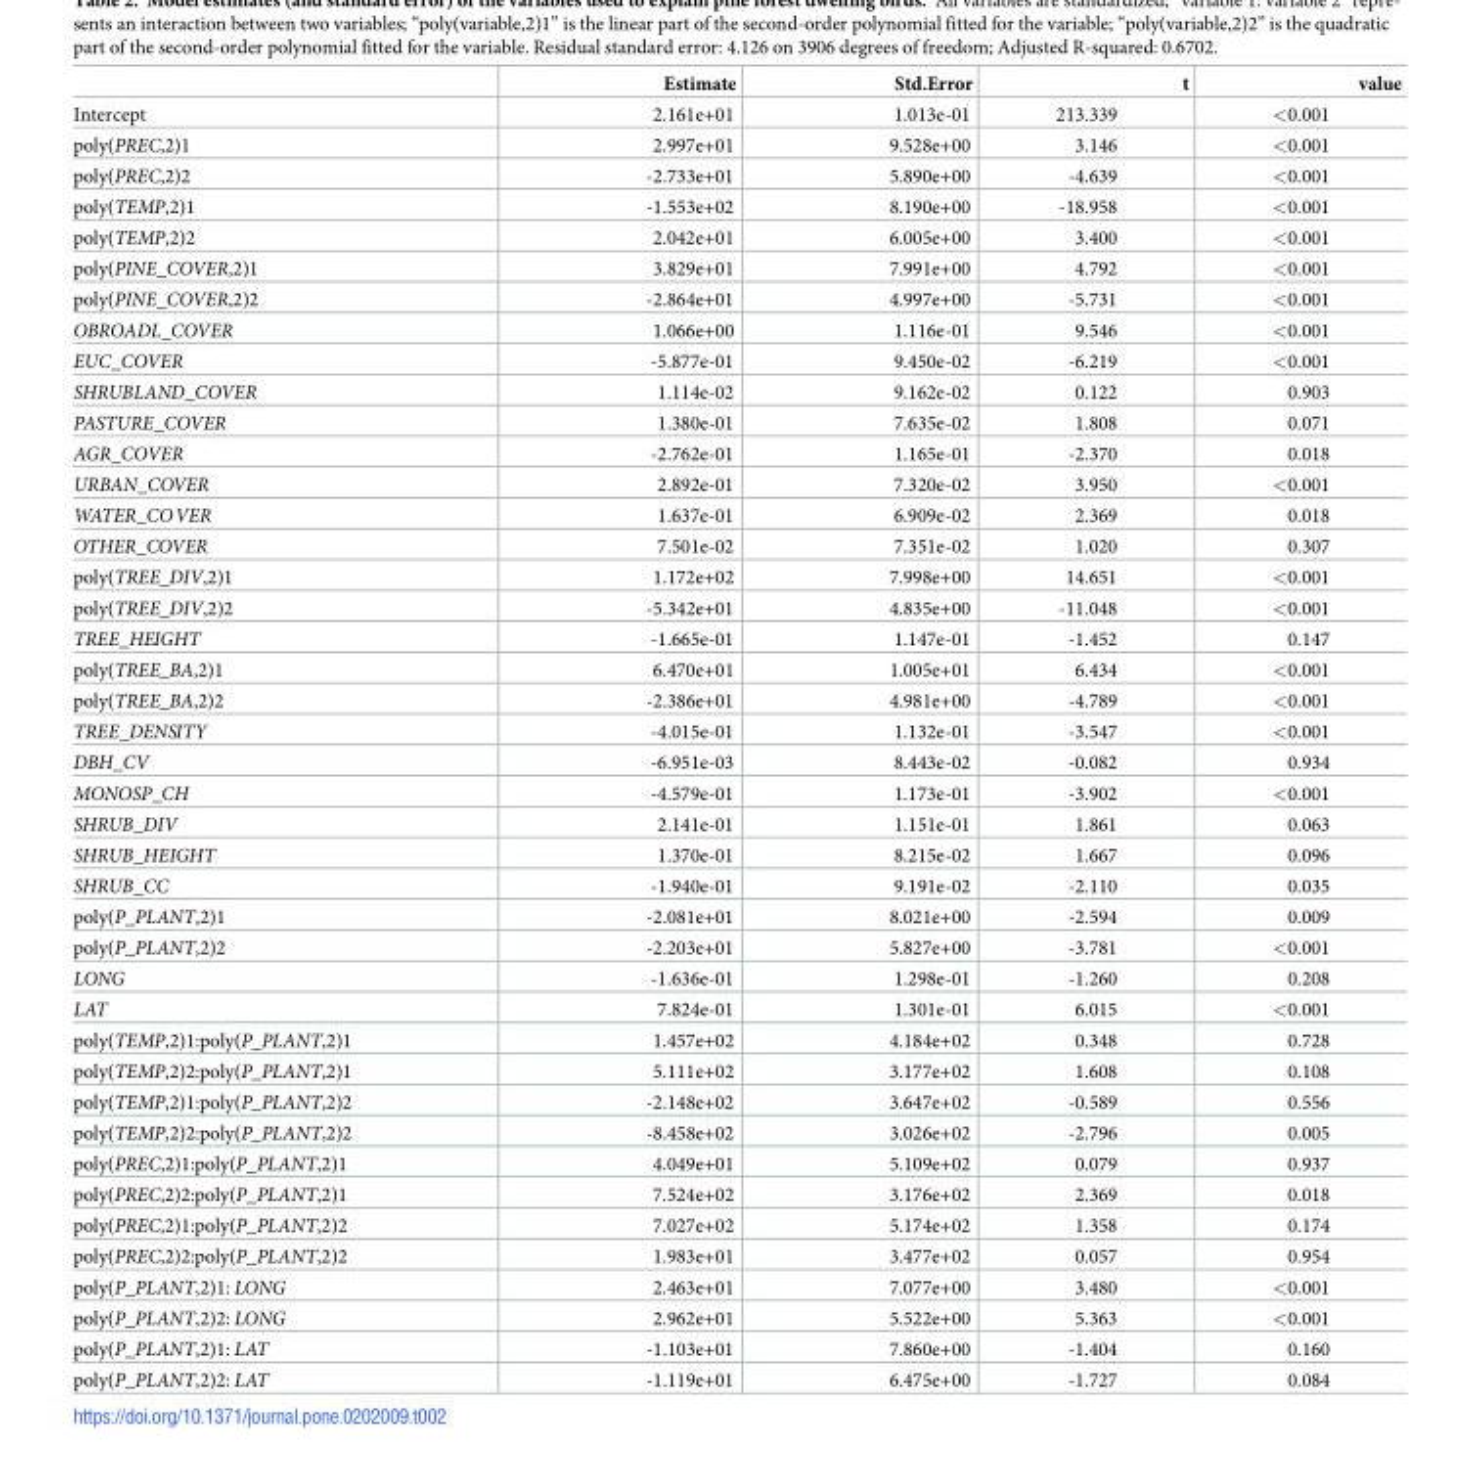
<table><thead><tr><td></td><td>Estimate</td><td>Std.Error</td><td>t</td><td>value</td></tr></thead><tbody><tr><td>Intercept</td><td>2.161e+01</td><td>1.013e-01</td><td>213.339</td><td>&lt;0.001</td></tr><tr><td>poly(PREC,2)1</td><td>2.997e+01</td><td>9.528e+00</td><td>3.146</td><td>&lt;0.001</td></tr><tr><td>poly(PREC,2)2</td><td>-2.733e+01</td><td>5.890e+00</td><td>-4.639</td><td>&lt;0.001</td></tr><tr><td>poly(TEMP,2)1</td><td>-1.553e+02</td><td>8.190e+00</td><td>-18.958</td><td>&lt;0.001</td></tr><tr><td>poly(TEMP,2)2</td><td>2.042e+01</td><td>6.005e+00</td><td>3.400</td><td>&lt;0.001</td></tr><tr><td>poly(PINE_COVER,2)1</td><td>3.829e+01</td><td>7.991e+00</td><td>4.792</td><td>&lt;0.001</td></tr><tr><td>poly(PINE_COVER,2)2</td><td>-2.864e+01</td><td>4.997e+00</td><td>-5.731</td><td>&lt;0.001</td></tr><tr><td>OBROADL_COVER</td><td>1.066e+00</td><td>1.116e-01</td><td>9.546</td><td>&lt;0.001</td></tr><tr><td>EUC_COVER</td><td>-5.877e-01</td><td>9.450e-02</td><td>-6.219</td><td>&lt;0.001</td></tr><tr><td>SHRUBLAND_COVER</td><td>1.114e-02</td><td>9.162e-02</td><td>0.122</td><td>0.903</td></tr><tr><td>PASTURE_COVER</td><td>1.380e-01</td><td>7.635e-02</td><td>1.808</td><td>0.071</td></tr><tr><td>AGR_COVER</td><td>-2.762e-01</td><td>1.165e-01</td><td>-2.370</td><td>0.018</td></tr><tr><td>URBAN_COVER</td><td>2.892e-01</td><td>7.320e-02</td><td>3.950</td><td>&lt;0.001</td></tr><tr><td>WATER_COVER</td><td>1.637e-01</td><td>6.909e-02</td><td>2.369</td><td>0.018</td></tr><tr><td>OTHER_COVER</td><td>7.501e-02</td><td>7.351e-02</td><td>1.020</td><td>0.307</td></tr><tr><td>poly(TREE_DIV,2)1</td><td>1.172e+02</td><td>7.998e+00</td><td>14.651</td><td>&lt;0.001</td></tr><tr><td>poly(TREE_DIV,2)2</td><td>-5.342e+01</td><td>4.835e+00</td><td>-11.048</td><td>&lt;0.001</td></tr><tr><td>TREE_HEIGHT</td><td>-1.665e-01</td><td>1.147e-01</td><td>-1.452</td><td>0.147</td></tr><tr><td>poly(TREE_BA,2)1</td><td>6.470e+01</td><td>1.005e+01</td><td>6.434</td><td>&lt;0.001</td></tr><tr><td>poly(TREE_BA,2)2</td><td>-2.386e+01</td><td>4.981e+00</td><td>-4.789</td><td>&lt;0.001</td></tr><tr><td>TREE_DENSITY</td><td>-4.015e-01</td><td>1.132e-01</td><td>-3.547</td><td>&lt;0.001</td></tr><tr><td>DBH_CV</td><td>-6.951e-03</td><td>8.443e-02</td><td>-0.082</td><td>0.934</td></tr><tr><td>MONOSP_CH</td><td>-4.579e-01</td><td>1.173e-01</td><td>-3.902</td><td>&lt;0.001</td></tr><tr><td>SHRUB_DIV</td><td>2.141e-01</td><td>1.151e-01</td><td>1.861</td><td>0.063</td></tr><tr><td>SHRUB_HEIGHT</td><td>1.370e-01</td><td>8.215e-02</td><td>1.667</td><td>0.096</td></tr><tr><td>SHRUB_CC</td><td>-1.940e-01</td><td>9.191e-02</td><td>-2.110</td><td>0.035</td></tr><tr><td>poly(P_PLANT,2)1</td><td>-2.081e+01</td><td>8.021e+00</td><td>-2.594</td><td>0.009</td></tr><tr><td>poly(P_PLANT,2)2</td><td>-2.203e+01</td><td>5.827e+00</td><td>-3.781</td><td>&lt;0.001</td></tr><tr><td>LONG</td><td>-1.636e-01</td><td>1.298e-01</td><td>-1.260</td><td>0.208</td></tr><tr><td>LAT</td><td>7.824e-01</td><td>1.301e-01</td><td>6.015</td><td>&lt;0.001</td></tr><tr><td>poly(TEMP,2)1:poly(P_PLANT,2)1</td><td>1.457e+02</td><td>4.184e+02</td><td>0.348</td><td>0.728</td></tr><tr><td>poly(TEMP,2)2:poly(P_PLANT,2)1</td><td>5.111e+02</td><td>3.177e+02</td><td>1.608</td><td>0.108</td></tr><tr><td>poly(TEMP,2)1:poly(P_PLANT,2)2</td><td>-2.148e+02</td><td>3.647e+02</td><td>-0.589</td><td>0.556</td></tr><tr><td>poly(TEMP,2)2:poly(P_PLANT,2)2</td><td>-8.458e+02</td><td>3.026e+02</td><td>-2.796</td><td>0.005</td></tr><tr><td>poly(PREC,2)1:poly(P_PLANT,2)1</td><td>4.049e+01</td><td>5.109e+02</td><td>0.079</td><td>0.937</td></tr><tr><td>poly(PREC,2)2:poly(P_PLANT,2)1</td><td>7.524e+02</td><td>3.176e+02</td><td>2.369</td><td>0.018</td></tr><tr><td>poly(PREC,2)1:poly(P_PLANT,2)2</td><td>7.027e+02</td><td>5.174e+02</td><td>1.358</td><td>0.174</td></tr><tr><td>poly(PREC,2)2:poly(P_PLANT,2)2</td><td>1.983e+01</td><td>3.477e+02</td><td>0.057</td><td>0.954</td></tr><tr><td>poly(P_PLANT,2)1: LONG</td><td>2.463e+01</td><td>7.077e+00</td><td>3.480</td><td>&lt;0.001</td></tr><tr><td>poly(P_PLANT,2)2: LONG</td><td>2.962e+01</td><td>5.522e+00</td><td>5.363</td><td>&lt;0.001</td></tr><tr><td>poly(P_PLANT,2)1: LAT</td><td>-1.103e+01</td><td>7.860e+00</td><td>-1.404</td><td>0.160</td></tr><tr><td>poly(P_PLANT,2)2: LAT</td><td>-1.119e+01</td><td>6.475e+00</td><td>-1.727</td><td>0.084</td></tr></tbody></table>